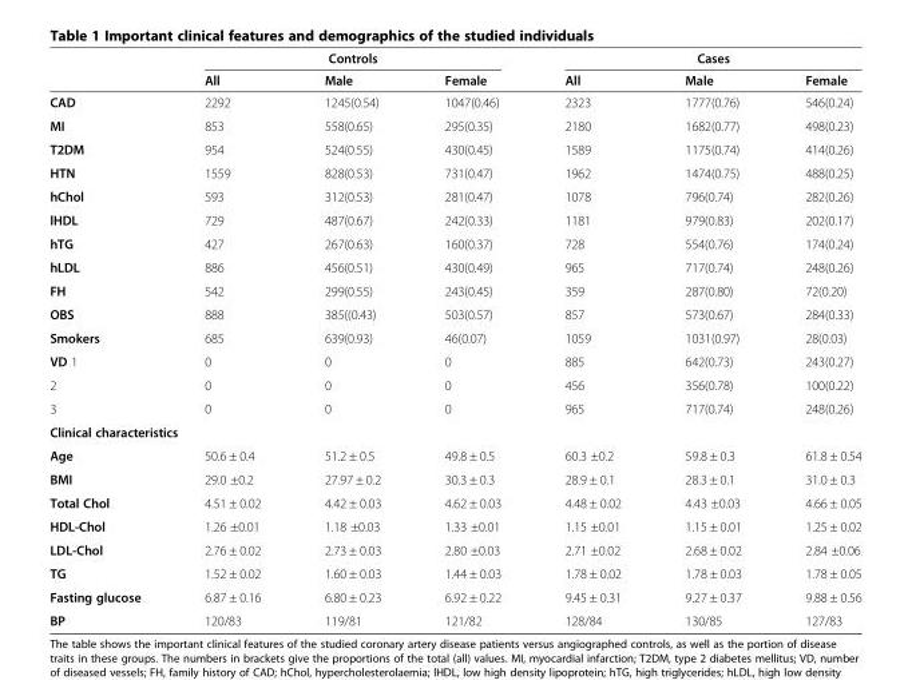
<table><thead><tr><td rowspan="2"></td><td colspan="3">Controls</td><td colspan="3">Cases</td></tr><tr><td>All</td><td>Male</td><td>Female</td><td>All</td><td>Male</td><td>Female</td></tr></thead><tbody><tr><td>CAD</td><td>2292</td><td>1245(0.54)</td><td>1047(0.46)</td><td>2323</td><td>1777(0.76)</td><td>546(0.24)</td></tr><tr><td>MI</td><td>853</td><td>558(0.65)</td><td>295(0.35)</td><td>2180</td><td>1682(0.77)</td><td>498(0.23)</td></tr><tr><td>T2DM</td><td>954</td><td>524(0.55)</td><td>430(0.45)</td><td>1589</td><td>1175(0.74)</td><td>414(0.26)</td></tr><tr><td>HTN</td><td>1559</td><td>828(0.53)</td><td>731(0.47)</td><td>1962</td><td>1474(0.75)</td><td>488(0.25)</td></tr><tr><td>hChol</td><td>593</td><td>312(0.53)</td><td>281(0.47)</td><td>1078</td><td>796(0.74)</td><td>282(0.26)</td></tr><tr><td>lHDL</td><td>729</td><td>487(0.67)</td><td>242(0.33)</td><td>1181</td><td>979(0.83)</td><td>202(0.17)</td></tr><tr><td>hTG</td><td>427</td><td>267(0.63)</td><td>160(0.37)</td><td>728</td><td>554(0.76)</td><td>174(0.24)</td></tr><tr><td>hLDL</td><td>886</td><td>456(0.51)</td><td>430(0.49)</td><td>965</td><td>717(0.74)</td><td>248(0.26)</td></tr><tr><td>FH</td><td>542</td><td>299(0.55)</td><td>243(0.45)</td><td>359</td><td>287(0.80)</td><td>72(0.20)</td></tr><tr><td>OBS</td><td>888</td><td>385((0.43)</td><td>503(0.57)</td><td>857</td><td>573(0.67)</td><td>284(0.33)</td></tr><tr><td>Smokers</td><td>685</td><td>639(0.93)</td><td>46(0.07)</td><td>1059</td><td>1031(0.97)</td><td>28(0.03)</td></tr><tr><td>VD 1</td><td>0</td><td>0</td><td>0</td><td>885</td><td>642(0.73)</td><td>243(0.27)</td></tr><tr><td>2</td><td>0</td><td>0</td><td>0</td><td>456</td><td>356(0.78)</td><td>100(0.22)</td></tr><tr><td>3</td><td>0</td><td>0</td><td>0</td><td>965</td><td>717(0.74)</td><td>248(0.26)</td></tr><tr><td colspan="7">Clinical characteristics</td></tr><tr><td>Age</td><td>50.6 ± 0.4</td><td>51.2 ± 0.5</td><td>49.8 ± 0.5</td><td>60.3 ±0.2</td><td>59.8 ± 0.3</td><td>61.8 ± 0.54</td></tr><tr><td>BMI</td><td>29.0 ±0.2</td><td>27.97 ± 0.2</td><td>30.3 ± 0.3</td><td>28.9 ± 0.1</td><td>28.3 ± 0.1</td><td>31.0 ± 0.3</td></tr><tr><td>Total Chol</td><td>4.51 ± 0.02</td><td>4.42 ± 0.03</td><td>4.62 ± 0.03</td><td>4.48 ± 0.02</td><td>4.43 ±0.03</td><td>4.66 ± 0.05</td></tr><tr><td>HDL-Chol</td><td>1.26 ±0.01</td><td>1.18 ±0.03</td><td>1.33 ±0.01</td><td>1.15 ±0.01</td><td>1.15 ± 0.01</td><td>1.25 ± 0.02</td></tr><tr><td>LDL-Chol</td><td>2.76 ± 0.02</td><td>2.73 ± 0.03</td><td>2.80 ±0.03</td><td>2.71 ±0.02</td><td>2.68 ± 0.02</td><td>2.84 ±0.06</td></tr><tr><td>TG</td><td>1.52 ± 0.02</td><td>1.60 ± 0.03</td><td>1.44 ± 0.03</td><td>1.78 ± 0.02</td><td>1.78 ± 0.03</td><td>1.78 ± 0.05</td></tr><tr><td>Fasting glucose</td><td>6.87 ± 0.16</td><td>6.80 ± 0.23</td><td>6.92 ± 0.22</td><td>9.45 ± 0.31</td><td>9.27 ± 0.37</td><td>9.88 ± 0.56</td></tr><tr><td>BP</td><td>120/83</td><td>119/81</td><td>121/82</td><td>128/84</td><td>130/85</td><td>127/83</td></tr></tbody></table>